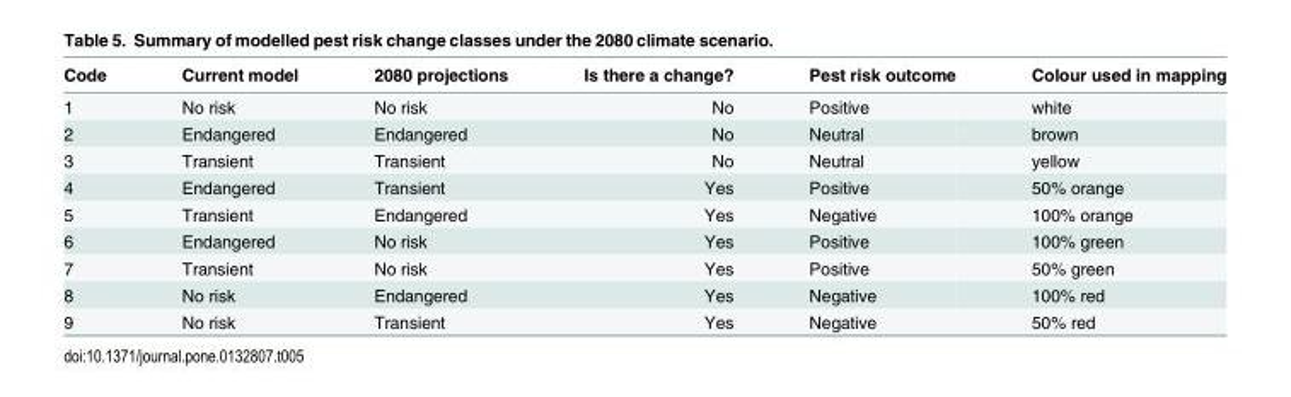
<table><thead><tr><td>Code</td><td>Current model</td><td>2080 projections</td><td>Is there a change?</td><td>Pest risk outcome</td><td>Colour used in mapping</td></tr></thead><tbody><tr><td>1</td><td>No risk</td><td>No risk</td><td>No</td><td>Positive</td><td>white</td></tr><tr><td>2</td><td>Endangered</td><td>Endangered</td><td>No</td><td>Neutral</td><td>brown</td></tr><tr><td>3</td><td>Transient</td><td>Transient</td><td>No</td><td>Neutral</td><td>yellow</td></tr><tr><td>4</td><td>Endangered</td><td>Transient</td><td>Yes</td><td>Positive</td><td>50% orange</td></tr><tr><td>5</td><td>Transient</td><td>Endangered</td><td>Yes</td><td>Negative</td><td>100% orange</td></tr><tr><td>6</td><td>Endangered</td><td>No risk</td><td>Yes</td><td>Positive</td><td>100% green</td></tr><tr><td>7</td><td>Transient</td><td>No risk</td><td>Yes</td><td>Positive</td><td>50% green</td></tr><tr><td>8</td><td>No risk</td><td>Endangered</td><td>Yes</td><td>Negative</td><td>100% red</td></tr><tr><td>9</td><td>No risk</td><td>Transient</td><td>Yes</td><td>Negative</td><td>50% red</td></tr></tbody></table>